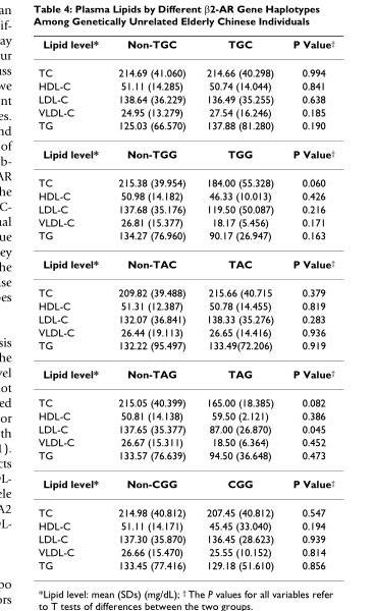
<table><thead><tr><td>Lipid level*</td><td>Non-TGC</td><td>TGC</td><td>P Value<sup>†</sup></td></tr></thead><tbody><tr><td>TC</td><td>214.69 (41.060)</td><td>214.66 (40.298)</td><td>0.994</td></tr><tr><td>HDL-C</td><td>51.11 (14.285)</td><td>50.74 (14.044)</td><td>0.841</td></tr><tr><td>LDL-C</td><td>138.64 (36.229)</td><td>136.49 (35.255)</td><td>0.638</td></tr><tr><td>VLDL-C</td><td>24.95 (13.279)</td><td>27.54 (16.246)</td><td>0.185</td></tr><tr><td>TG</td><td>125.03 (66.570)</td><td>137.88 (81.280)</td><td>0.190</td></tr><tr><td>Lipid level*</td><td>Non-TGG</td><td>TGG</td><td>P Value<sup>†</sup></td></tr><tr><td>TC</td><td>215.38 (39.954)</td><td>184.00 (55.328)</td><td>0.060</td></tr><tr><td>HDL-C</td><td>50.98 (14.182)</td><td>46.33 (10.013)</td><td>0.426</td></tr><tr><td>LDL-C</td><td>137.68 (35.176)</td><td>119.50 (50.087)</td><td>0.216</td></tr><tr><td>VLDL-C</td><td>26.81 (15.377)</td><td>18.17 (5.456)</td><td>0.171</td></tr><tr><td>TG</td><td>134.27 (76.960)</td><td>90.17 (26.947)</td><td>0.163</td></tr><tr><td>Lipid level*</td><td>Non-TAC</td><td>TAC</td><td>P Value<sup>†</sup></td></tr><tr><td>TC</td><td>209.82 (39.488)</td><td>215.66 (40.715</td><td>0.379</td></tr><tr><td>HDL-C</td><td>51.31 (12.387)</td><td>50.78 (14.455)</td><td>0.819</td></tr><tr><td>LDL-C</td><td>132.07 (36.841)</td><td>138.33 (35.276)</td><td>0.283</td></tr><tr><td>VLDL-C</td><td>26.44 (19.113)</td><td>26.65 (14.416)</td><td>0.936</td></tr><tr><td>TG</td><td>132.22 (95.497)</td><td>133.49(72.206)</td><td>0.919</td></tr><tr><td>Lipid level*</td><td>Non-TAG</td><td>TAG</td><td>P Value<sup>†</sup></td></tr><tr><td>TC</td><td>215.05 (40.399)</td><td>165.00 (18.385)</td><td>0.082</td></tr><tr><td>HDL-C</td><td>50.81 (14.138)</td><td>59.50 (2.121)</td><td>0.386</td></tr><tr><td>LDL-C</td><td>137.65 (35.377)</td><td>87.00 (26.870)</td><td>0.045</td></tr><tr><td>VLDL-C</td><td>26.67 (15.311)</td><td>18.50 (6.364)</td><td>0.452</td></tr><tr><td>TG</td><td>133.57 (76.639)</td><td>94.50 (36.648)</td><td>0.473</td></tr><tr><td>Lipid level*</td><td>Non-CGG</td><td>CGG</td><td>P Value<sup>†</sup></td></tr><tr><td>TC</td><td>214.98 (40.812)</td><td>207.45 (40.812)</td><td>0.547</td></tr><tr><td>HDL-C</td><td>51.11 (14.171)</td><td>45.45 (33.040)</td><td>0.194</td></tr><tr><td>LDL-C</td><td>137.30 (35.870)</td><td>136.45 (28.623)</td><td>0.939</td></tr><tr><td>VLDL-C</td><td>26.66 (15.470)</td><td>25.55 (10.152)</td><td>0.814</td></tr><tr><td>TG</td><td>133.45 (77.416)</td><td>129.18 (51.610)</td><td>0.856</td></tr></tbody></table>